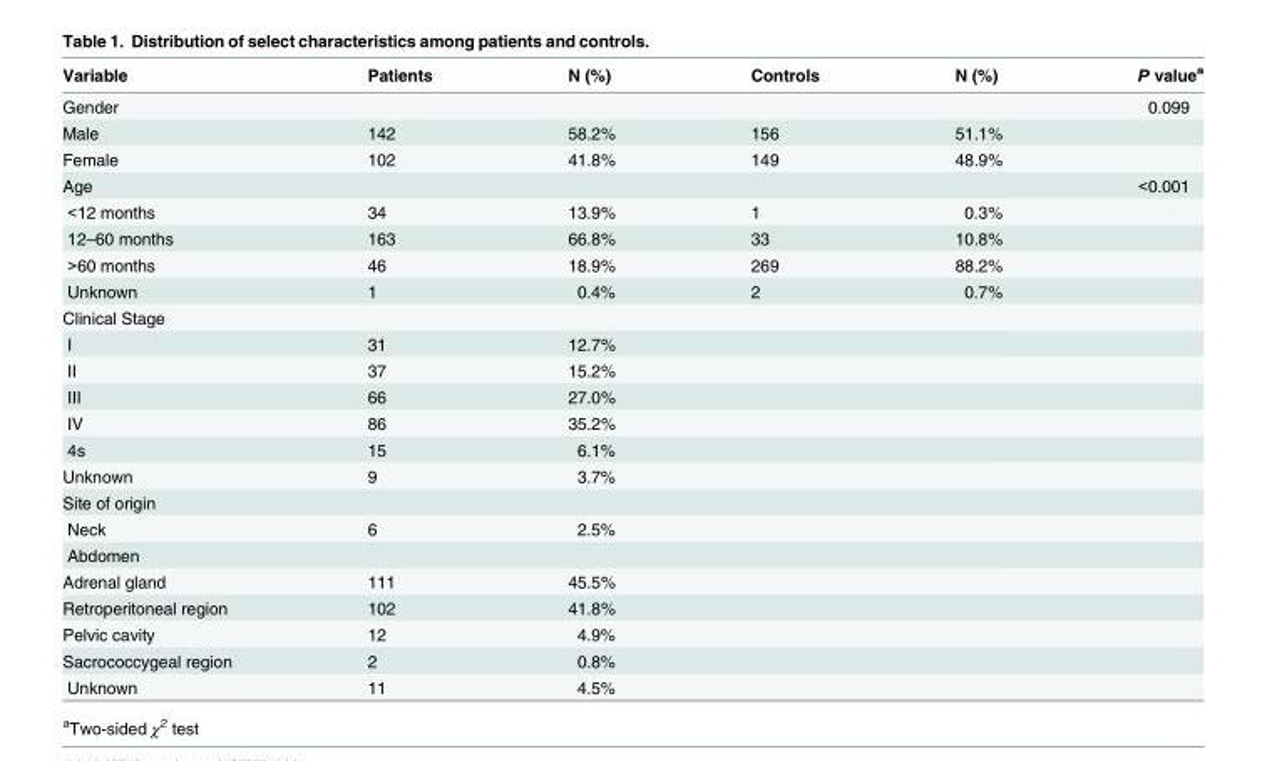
<table><thead><tr><td>Variable</td><td>Patients</td><td>N (%)</td><td>Controls</td><td>N (%)</td><td>P value<sup>a</sup></td></tr></thead><tbody><tr><td>Gender</td><td></td><td></td><td></td><td></td><td>0.099</td></tr><tr><td>Male</td><td>142</td><td>58.2%</td><td>156</td><td>51.1%</td><td></td></tr><tr><td>Female</td><td>102</td><td>41.8%</td><td>149</td><td>48.9%</td><td></td></tr><tr><td>Age</td><td></td><td></td><td></td><td></td><td>&lt;0.001</td></tr><tr><td>&lt;12 months</td><td>34</td><td>13.9%</td><td>1</td><td>0.3%</td><td></td></tr><tr><td>12–60 months</td><td>163</td><td>66.8%</td><td>33</td><td>10.8%</td><td></td></tr><tr><td>&gt;60 months</td><td>46</td><td>18.9%</td><td>269</td><td>88.2%</td><td></td></tr><tr><td>Unknown</td><td>1</td><td>0.4%</td><td>2</td><td>0.7%</td><td></td></tr><tr><td colspan="6">Clinical Stage</td></tr><tr><td>I</td><td>31</td><td>12.7%</td><td></td><td></td><td></td></tr><tr><td>II</td><td>37</td><td>15.2%</td><td></td><td></td><td></td></tr><tr><td>III</td><td>66</td><td>27.0%</td><td></td><td></td><td></td></tr><tr><td>IV</td><td>86</td><td>35.2%</td><td></td><td></td><td></td></tr><tr><td>4s</td><td>15</td><td>6.1%</td><td></td><td></td><td></td></tr><tr><td>Unknown</td><td>9</td><td>3.7%</td><td></td><td></td><td></td></tr><tr><td colspan="6">Site of origin</td></tr><tr><td>Neck</td><td>6</td><td>2.5%</td><td></td><td></td><td></td></tr><tr><td colspan="6">Abdomen</td></tr><tr><td>Adrenal gland</td><td>111</td><td>45.5%</td><td></td><td></td><td></td></tr><tr><td>Retroperitoneal region</td><td>102</td><td>41.8%</td><td></td><td></td><td></td></tr><tr><td>Pelvic cavity</td><td>12</td><td>4.9%</td><td></td><td></td><td></td></tr><tr><td>Sacrococcygeal region</td><td>2</td><td>0.8%</td><td></td><td></td><td></td></tr><tr><td>Unknown</td><td>11</td><td>4.5%</td><td></td><td></td><td></td></tr></tbody></table>